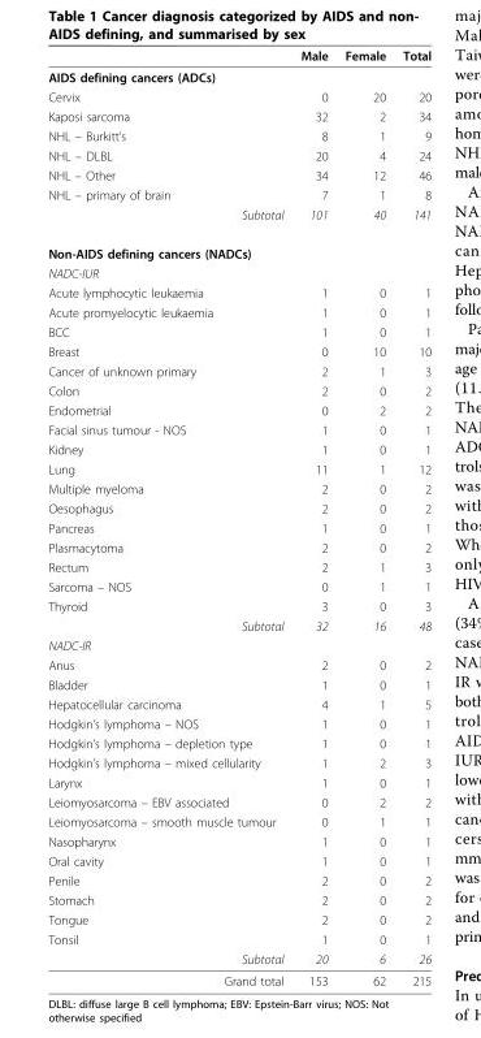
<table><thead><tr><td></td><td>Male</td><td>Female</td><td>Total</td></tr></thead><tbody><tr><td colspan="4">AIDS defining cancers (ADCs)</td></tr><tr><td>Cervix</td><td>0</td><td>20</td><td>20</td></tr><tr><td>Kaposi sarcoma</td><td>32</td><td>2</td><td>34</td></tr><tr><td>NHL – Burkitt’s</td><td>8</td><td>1</td><td>9</td></tr><tr><td>NHL – DLBL</td><td>20</td><td>4</td><td>24</td></tr><tr><td>NHL – Other</td><td>34</td><td>12</td><td>46</td></tr><tr><td>NHL – primary of brain</td><td>7</td><td>1</td><td>8</td></tr><tr><td>Subtotal</td><td>101</td><td>40</td><td>141</td></tr><tr><td colspan="4">Non-AIDS defining cancers (NADCs)</td></tr><tr><td colspan="4">NADC-IUR</td></tr><tr><td>Acute lymphocytic leukaemia</td><td>1</td><td>0</td><td>1</td></tr><tr><td>Acute promyelocytic leukaemia</td><td>1</td><td>0</td><td>1</td></tr><tr><td>BCC</td><td>1</td><td>0</td><td>1</td></tr><tr><td>Breast</td><td>0</td><td>10</td><td>10</td></tr><tr><td>Cancer of unknown primary</td><td>2</td><td>1</td><td>3</td></tr><tr><td>Colon</td><td>2</td><td>0</td><td>2</td></tr><tr><td>Endometrial</td><td>0</td><td>2</td><td>2</td></tr><tr><td>Facial sinus tumour - NOS</td><td>1</td><td>0</td><td>1</td></tr><tr><td>Kidney</td><td>1</td><td>0</td><td>1</td></tr><tr><td>Lung</td><td>11</td><td>1</td><td>12</td></tr><tr><td>Multiple myeloma</td><td>2</td><td>0</td><td>2</td></tr><tr><td>Oesophagus</td><td>2</td><td>0</td><td>2</td></tr><tr><td>Pancreas</td><td>1</td><td>0</td><td>1</td></tr><tr><td>Plasmacytoma</td><td>2</td><td>0</td><td>2</td></tr><tr><td>Rectum</td><td>2</td><td>1</td><td>3</td></tr><tr><td>Sarcoma – NOS</td><td>0</td><td>1</td><td>1</td></tr><tr><td>Thyroid</td><td>3</td><td>0</td><td>3</td></tr><tr><td>Subtotal</td><td>32</td><td>16</td><td>48</td></tr><tr><td colspan="4">NADC-IR</td></tr><tr><td>Anus</td><td>2</td><td>0</td><td>2</td></tr><tr><td>Bladder</td><td>1</td><td>0</td><td>1</td></tr><tr><td>Hepatocellular carcinoma</td><td>4</td><td>1</td><td>5</td></tr><tr><td>Hodgkin’s lymphoma – NOS</td><td>1</td><td>0</td><td>1</td></tr><tr><td>Hodgkin’s lymphoma – depletion type</td><td>1</td><td>0</td><td>1</td></tr><tr><td>Hodgkin’s lymphoma – mixed cellularity</td><td>1</td><td>2</td><td>3</td></tr><tr><td>Larynx</td><td>1</td><td>0</td><td>1</td></tr><tr><td>Leiomyosarcoma – EBV associated</td><td>0</td><td>2</td><td>2</td></tr><tr><td>Leiomyosarcoma – smooth muscle tumour</td><td>0</td><td>1</td><td>1</td></tr><tr><td>Nasopharynx</td><td>1</td><td>0</td><td>1</td></tr><tr><td>Oral cavity</td><td>1</td><td>0</td><td>1</td></tr><tr><td>Penile</td><td>2</td><td>0</td><td>2</td></tr><tr><td>Stomach</td><td>2</td><td>0</td><td>2</td></tr><tr><td>Tongue</td><td>2</td><td>0</td><td>2</td></tr><tr><td>Tonsil</td><td>1</td><td>0</td><td>1</td></tr><tr><td>Subtotal</td><td>20</td><td>6</td><td>26</td></tr><tr><td>Grand total</td><td>153</td><td>62</td><td>215</td></tr></tbody></table>